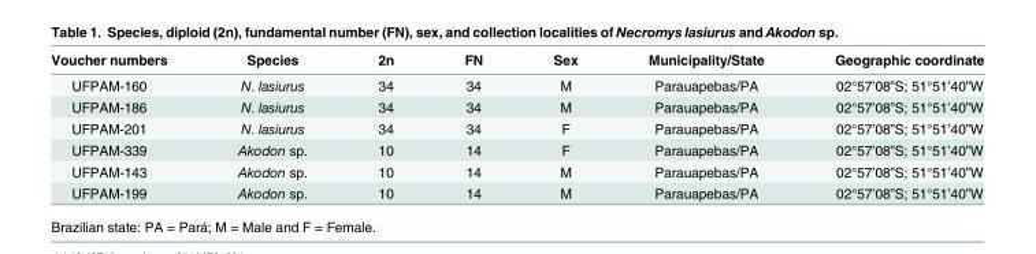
<table><thead><tr><td>Voucher numbers</td><td>Species</td><td>2n</td><td>FN</td><td>Sex</td><td>Municipality/State</td><td>Geographic coordinate</td></tr></thead><tbody><tr><td>UFPAM-160</td><td>N. lasiurus</td><td>34</td><td>34</td><td>M</td><td>Parauapebas/PA</td><td>02°57’08”S; 51°51’40”W</td></tr><tr><td>UFPAM-186</td><td>N. lasiurus</td><td>34</td><td>34</td><td>M</td><td>Parauapebas/PA</td><td>02°57’08”S; 51°51’40”W</td></tr><tr><td>UFPAM-201</td><td>N. lasiurus</td><td>34</td><td>34</td><td>F</td><td>Parauapebas/PA</td><td>02°57’08”S; 51°51’40”W</td></tr><tr><td>UFPAM-339</td><td>Akodon sp.</td><td>10</td><td>14</td><td>F</td><td>Parauapebas/PA</td><td>02°57’08”S; 51°51’40”W</td></tr><tr><td>UFPAM-143</td><td>Akodon sp.</td><td>10</td><td>14</td><td>M</td><td>Parauapebas/PA</td><td>02°57’08”S; 51°51’40”W</td></tr><tr><td>UFPAM-199</td><td>Akodon sp.</td><td>10</td><td>14</td><td>M</td><td>Parauapebas/PA</td><td>02°57’08”S; 51°51’40”W</td></tr></tbody></table>